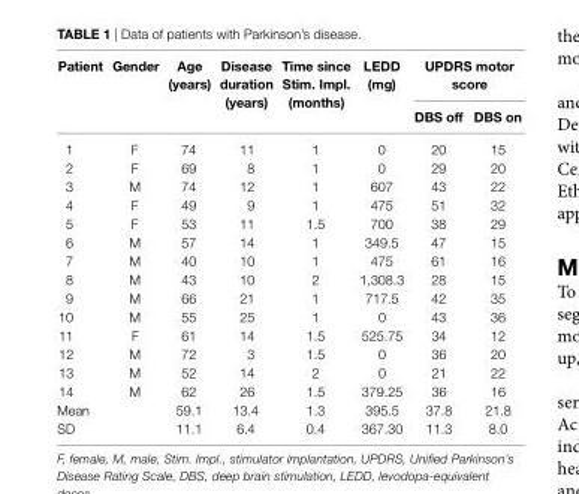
<table><thead><tr><td rowspan="2">Patient</td><td rowspan="2">gender</td><td rowspan="2">age (years)</td><td rowspan="2">Disease duration (years)</td><td rowspan="2">Time since stim. impl. (months)</td><td rowspan="2">leDD (mg)</td><td colspan="2">UPDrs motor score</td></tr><tr><td>DBs off</td><td>DBs on</td></tr></thead><tbody><tr><td>1</td><td>F</td><td>74</td><td>11</td><td>1</td><td>0</td><td>20</td><td>15</td></tr><tr><td>2</td><td>F</td><td>69</td><td>8</td><td>1</td><td>0</td><td>29</td><td>20</td></tr><tr><td>3</td><td>M</td><td>74</td><td>12</td><td>1</td><td>607</td><td>43</td><td>22</td></tr><tr><td>4</td><td>F</td><td>49</td><td>9</td><td>1</td><td>475</td><td>51</td><td>32</td></tr><tr><td>5</td><td>F</td><td>53</td><td>11</td><td>1.5</td><td>700</td><td>38</td><td>29</td></tr><tr><td>6</td><td>M</td><td>57</td><td>14</td><td>1</td><td>349.5</td><td>47</td><td>15</td></tr><tr><td>7</td><td>M</td><td>40</td><td>10</td><td>1</td><td>475</td><td>61</td><td>16</td></tr><tr><td>8</td><td>M</td><td>43</td><td>10</td><td>2</td><td>1,308.3</td><td>28</td><td>15</td></tr><tr><td>9</td><td>M</td><td>66</td><td>21</td><td>1</td><td>717.5</td><td>42</td><td>35</td></tr><tr><td>10</td><td>M</td><td>55</td><td>25</td><td>1</td><td>0</td><td>43</td><td>36</td></tr><tr><td>11</td><td>F</td><td>61</td><td>14</td><td>1.5</td><td>525.75</td><td>34</td><td>12</td></tr><tr><td>12</td><td>M</td><td>72</td><td>3</td><td>1.5</td><td>0</td><td>36</td><td>20</td></tr><tr><td>13</td><td>M</td><td>52</td><td>14</td><td>2</td><td>0</td><td>21</td><td>22</td></tr><tr><td>14</td><td>M</td><td>62</td><td>26</td><td>1.5</td><td>379.25</td><td>36</td><td>16</td></tr><tr><td>Mean</td><td></td><td>59.1</td><td>13.4</td><td>1.3</td><td>395.5</td><td>37.8</td><td>21.8</td></tr><tr><td>SD</td><td></td><td>11.1</td><td>6.4</td><td>0.4</td><td>367.30</td><td>11.3</td><td>8.0</td></tr></tbody></table>